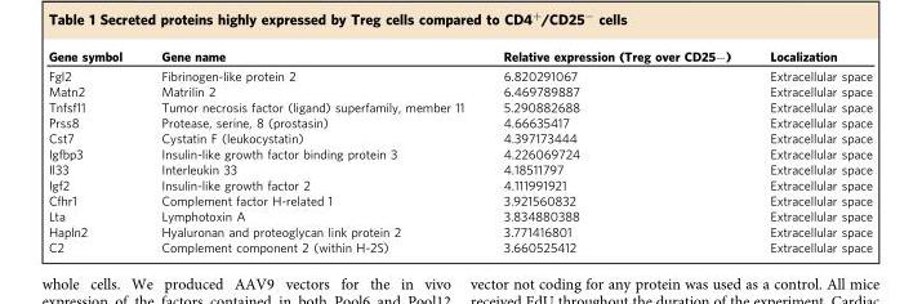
<table><thead><tr><td>Gene symbol</td><td>Gene name</td><td>Relative expression (Treg over CD25−)</td><td>Localization</td></tr></thead><tbody><tr><td>Fgl2</td><td>Fibrinogen-like protein 2</td><td>6.820291067</td><td>Extracellular space</td></tr><tr><td>Matn2</td><td>Matrilin 2</td><td>6.469789887</td><td>Extracellular space</td></tr><tr><td>Tnfsf11</td><td>Tumor necrosis factor (ligand) superfamily, member 11</td><td>5.290882688</td><td>Extracellular space</td></tr><tr><td>Prss8</td><td>Protease, serine, 8 (prostasin)</td><td>4.66635417</td><td>Extracellular space</td></tr><tr><td>Cst7</td><td>Cystatin F (leukocystatin)</td><td>4.397173444</td><td>Extracellular space</td></tr><tr><td>Igfbp3</td><td>Insulin-like growth factor binding protein 3</td><td>4.226069724</td><td>Extracellular space</td></tr><tr><td>Il33</td><td>Interleukin 33</td><td>4.18511797</td><td>Extracellular space</td></tr><tr><td>Igf2</td><td>Insulin-like growth factor 2</td><td>4.111991921</td><td>Extracellular space</td></tr><tr><td>Cfhr1</td><td>Complement factor H-related 1</td><td>3.921560832</td><td>Extracellular space</td></tr><tr><td>Lta</td><td>Lymphotoxin A</td><td>3.834880388</td><td>Extracellular space</td></tr><tr><td>Hapln2</td><td>Hyaluronan and proteoglycan link protein 2</td><td>3.771416801</td><td>Extracellular space</td></tr><tr><td>C2</td><td>Complement component 2 (within H-2S)</td><td>3.660525412</td><td>Extracellular space</td></tr></tbody></table>